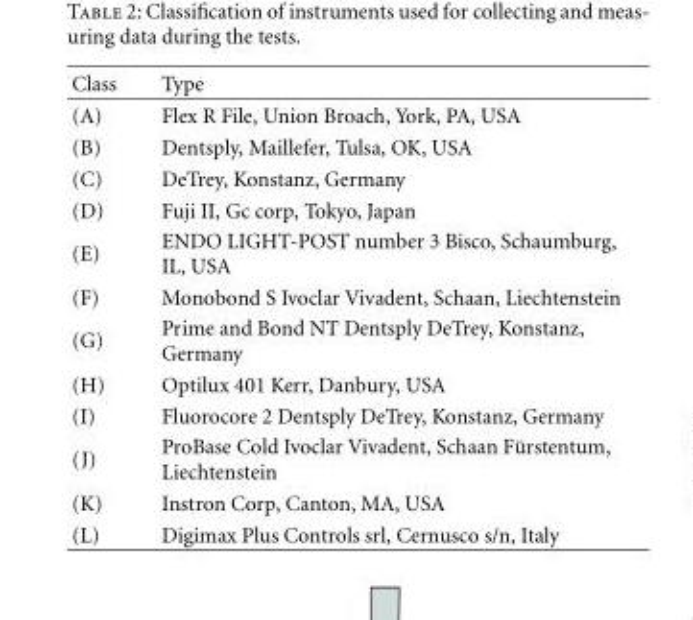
<table><thead><tr><td>Class</td><td>Type</td></tr></thead><tbody><tr><td>(A)</td><td>Flex R File, Union Broach, York, PA, USA</td></tr><tr><td>(B)</td><td>Dentsply, Maillefer, Tulsa, OK, USA</td></tr><tr><td>(C)</td><td>DeTrey, Konstanz, Germany</td></tr><tr><td>(D)</td><td>Fuji II, Gc corp, Tokyo, Japan</td></tr><tr><td>(E)</td><td>ENDO LIGHT-POST number 3 Bisco, Schaumburg, IL, USA</td></tr><tr><td>(F)</td><td>Monobond S Ivoclar Vivadent, Schaan, Liechtenstein</td></tr><tr><td>(G)</td><td>Prime and Bond NT Dentsply DeTrey, Konstanz, Germany</td></tr><tr><td>(H)</td><td>Optilux 401 Kerr, Danbury, USA</td></tr><tr><td>(I)</td><td>Fluorocore 2 Dentsply DeTrey, Konstanz, Germany</td></tr><tr><td>(J)</td><td>ProBase Cold Ivoclar Vivadent, Schaan F¨urstentum, Liechtenstein</td></tr><tr><td>(K)</td><td>Instron Corp, Canton, MA, USA</td></tr><tr><td>(L)</td><td>Digimax Plus Controls srl, Cernusco s/n, Italy</td></tr></tbody></table>